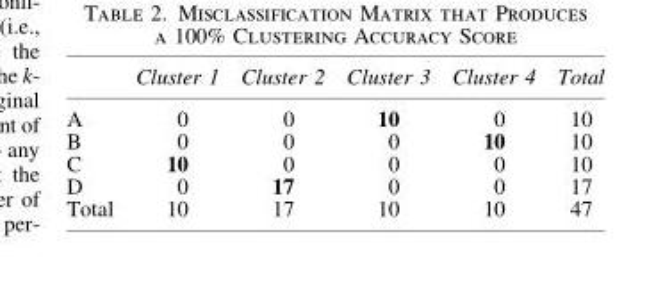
<table><thead><tr><td></td><td>Cluster 1</td><td>Cluster 2</td><td>Cluster 3</td><td>Cluster 4</td><td>Total</td></tr></thead><tbody><tr><td>A</td><td>0</td><td>0</td><td>10</td><td>0</td><td>10</td></tr><tr><td>B</td><td>0</td><td>0</td><td>0</td><td>10</td><td>10</td></tr><tr><td>C</td><td>10</td><td>0</td><td>0</td><td>0</td><td>10</td></tr><tr><td>D</td><td>0</td><td>17</td><td>0</td><td>0</td><td>17</td></tr><tr><td>Total</td><td>10</td><td>17</td><td>10</td><td>10</td><td>47</td></tr></tbody></table>